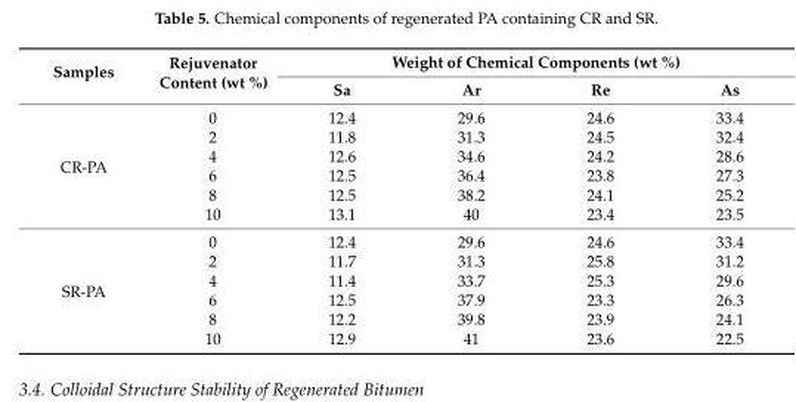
<table><thead><tr><td rowspan="2">Samples</td><td rowspan="2">Rejuvenator Content (wt %)</td><td colspan="4">Weight of Chemical Components (wt %)</td></tr><tr><td>Sa</td><td>Ar</td><td>Re</td><td>As</td></tr></thead><tbody><tr><td rowspan="6">CR-PA</td><td>0</td><td>12.4</td><td>29.6</td><td>24.6</td><td>33.4</td></tr><tr><td>2</td><td>11.8</td><td>31.3</td><td>24.5</td><td>32.4</td></tr><tr><td>4</td><td>12.6</td><td>34.6</td><td>24.2</td><td>28.6</td></tr><tr><td>6</td><td>12.5</td><td>36.4</td><td>23.8</td><td>27.3</td></tr><tr><td>8</td><td>12.5</td><td>38.2</td><td>24.1</td><td>25.2</td></tr><tr><td>10</td><td>13.1</td><td>40</td><td>23.4</td><td>23.5</td></tr><tr><td rowspan="6">SR-PA</td><td>0</td><td>12.4</td><td>29.6</td><td>24.6</td><td>33.4</td></tr><tr><td>2</td><td>11.7</td><td>31.3</td><td>25.8</td><td>31.2</td></tr><tr><td>4</td><td>11.4</td><td>33.7</td><td>25.3</td><td>29.6</td></tr><tr><td>6</td><td>12.5</td><td>37.9</td><td>23.3</td><td>26.3</td></tr><tr><td>8</td><td>12.2</td><td>39.8</td><td>23.9</td><td>24.1</td></tr><tr><td>10</td><td>12.9</td><td>41</td><td>23.6</td><td>22.5</td></tr></tbody></table>